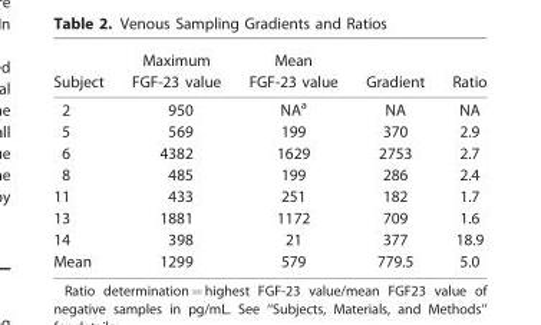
<table><thead><tr><td>Subject</td><td>Maximum FGF-23 value</td><td>Mean FGF-23 value</td><td>Gradient</td><td>Ratio</td></tr></thead><tbody><tr><td>2</td><td>950</td><td>NA<sup>a</sup></td><td>NA</td><td>NA</td></tr><tr><td>5</td><td>569</td><td>199</td><td>370</td><td>2.9</td></tr><tr><td>6</td><td>4382</td><td>1629</td><td>2753</td><td>2.7</td></tr><tr><td>8</td><td>485</td><td>199</td><td>286</td><td>2.4</td></tr><tr><td>11</td><td>433</td><td>251</td><td>182</td><td>1.7</td></tr><tr><td>13</td><td>1881</td><td>1172</td><td>709</td><td>1.6</td></tr><tr><td>14</td><td>398</td><td>21</td><td>377</td><td>18.9</td></tr><tr><td>Mean</td><td>1299</td><td>579</td><td>779.5</td><td>5.0</td></tr></tbody></table>